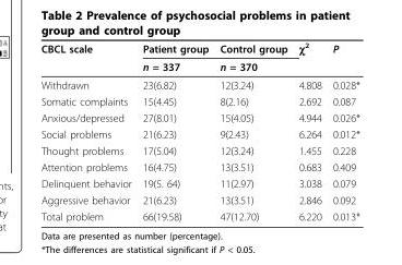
<table><thead><tr><td rowspan="2">CBCL scale</td><td rowspan="2">Patient group n = 337</td><td rowspan="2">Control group n = 370</td><td rowspan="2">χ<sup>2</sup></td><td rowspan="2">P</td></tr><tr></tr></thead><tbody><tr><td>Withdrawn</td><td>23(6.82)</td><td>12(3.24)</td><td>4.808</td><td>0.028*</td></tr><tr><td>Somatic complaints</td><td>15(4.45)</td><td>8(2.16)</td><td>2.692</td><td>0.087</td></tr><tr><td>Anxious/depressed</td><td>27(8.01)</td><td>15(4.05)</td><td>4.944</td><td>0.026*</td></tr><tr><td>Social problems</td><td>21(6.23)</td><td>9(2.43)</td><td>6.264</td><td>0.012*</td></tr><tr><td>Thought problems</td><td>17(5.04)</td><td>12(3.24)</td><td>1.455</td><td>0.228</td></tr><tr><td>Attention problems</td><td>16(4.75)</td><td>13(3.51)</td><td>0.683</td><td>0.409</td></tr><tr><td>Delinquent behavior</td><td>19(5. 64)</td><td>11(2.97)</td><td>3.038</td><td>0.079</td></tr><tr><td>Aggressive behavior</td><td>21(6.23)</td><td>13(3.51)</td><td>2.846</td><td>0.092</td></tr><tr><td>Total problem</td><td>66(19.58)</td><td>47(12.70)</td><td>6.220</td><td>0.013*</td></tr></tbody></table>